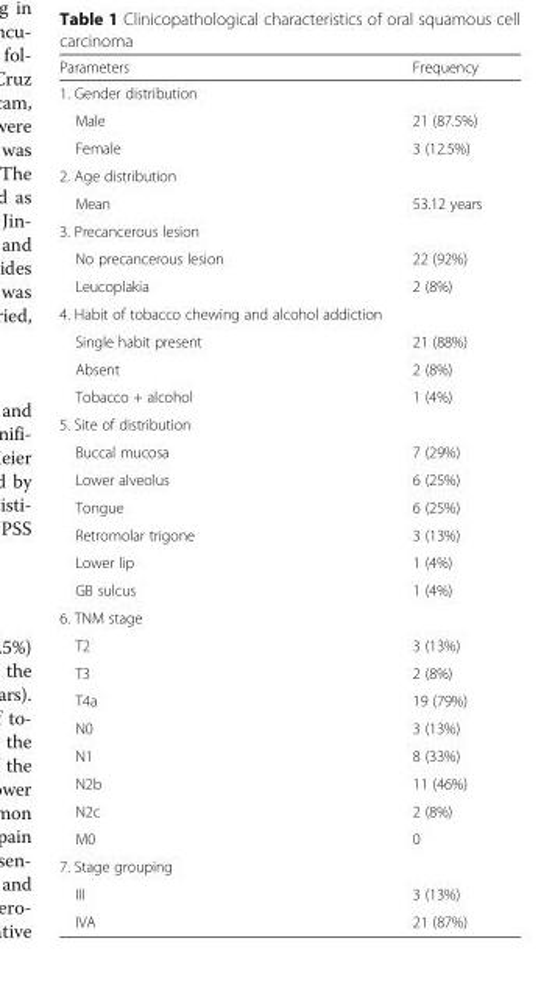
<table><thead><tr><td>Parameters</td><td>Frequency</td></tr></thead><tbody><tr><td colspan="2">1. Gender distribution</td></tr><tr><td>Male</td><td>21 (87.5%)</td></tr><tr><td>Female</td><td>3 (12.5%)</td></tr><tr><td colspan="2">2. Age distribution</td></tr><tr><td>Mean</td><td>53.12 years</td></tr><tr><td colspan="2">3. Precancerous lesion</td></tr><tr><td>No precancerous lesion</td><td>22 (92%)</td></tr><tr><td>Leucoplakia</td><td>2 (8%)</td></tr><tr><td colspan="2">4. Habit of tobacco chewing and alcohol addiction</td></tr><tr><td>Single habit present</td><td>21 (88%)</td></tr><tr><td>Absent</td><td>2 (8%)</td></tr><tr><td>Tobacco + alcohol</td><td>1 (4%)</td></tr><tr><td colspan="2">5. Site of distribution</td></tr><tr><td>Buccal mucosa</td><td>7 (29%)</td></tr><tr><td>Lower alveolus</td><td>6 (25%)</td></tr><tr><td>Tongue</td><td>6 (25%)</td></tr><tr><td>Retromolar trigone</td><td>3 (13%)</td></tr><tr><td>Lower lip</td><td>1 (4%)</td></tr><tr><td>GB sulcus</td><td>1 (4%)</td></tr><tr><td colspan="2">6. TNM stage</td></tr><tr><td>T2</td><td>3 (13%)</td></tr><tr><td>T3</td><td>2 (8%)</td></tr><tr><td>T4a</td><td>19 (79%)</td></tr><tr><td>N0</td><td>3 (13%)</td></tr><tr><td>N1</td><td>8 (33%)</td></tr><tr><td>N2b</td><td>11 (46%)</td></tr><tr><td>N2c</td><td>2 (8%)</td></tr><tr><td>M0</td><td>0</td></tr><tr><td colspan="2">7. Stage grouping</td></tr><tr><td>III</td><td>3 (13%)</td></tr><tr><td>IVA</td><td>21 (87%)</td></tr></tbody></table>